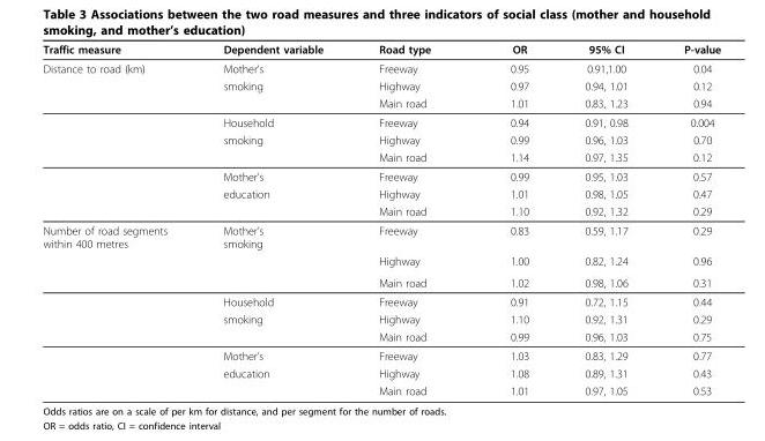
<table><thead><tr><td>Traffic measure</td><td>Dependent variable</td><td>Road type</td><td>OR</td><td>95% CI</td><td>P-value</td></tr></thead><tbody><tr><td rowspan="9">Distance to road (km)</td><td>Mother’s</td><td>Freeway</td><td>0.95</td><td>0.91,1.00</td><td>0.04</td></tr><tr><td>smoking</td><td>Highway</td><td>0.97</td><td>0.94, 1.01</td><td>0.12</td></tr><tr><td></td><td>Main road</td><td>1.01</td><td>0.83, 1.23</td><td>0.94</td></tr><tr><td>Household</td><td>Freeway</td><td>0.94</td><td>0.91, 0.98</td><td>0.004</td></tr><tr><td>smoking</td><td>Highway</td><td>0.99</td><td>0.96, 1.03</td><td>0.70</td></tr><tr><td></td><td>Main road</td><td>1.14</td><td>0.97, 1.35</td><td>0.12</td></tr><tr><td>Mother’s</td><td>Freeway</td><td>0.99</td><td>0.95, 1.03</td><td>0.57</td></tr><tr><td>education</td><td>Highway</td><td>1.01</td><td>0.98, 1.05</td><td>0.47</td></tr><tr><td></td><td>Main road</td><td>1.10</td><td>0.92, 1.32</td><td>0.29</td></tr><tr><td rowspan="9">Number of road segments within 400 metres</td><td>Mother’s smoking</td><td>Freeway</td><td>0.83</td><td>0.59, 1.17</td><td>0.29</td></tr><tr><td></td><td>Highway</td><td>1.00</td><td>0.82, 1.24</td><td>0.96</td></tr><tr><td></td><td>Main road</td><td>1.02</td><td>0.98, 1.06</td><td>0.31</td></tr><tr><td>Household</td><td>Freeway</td><td>0.91</td><td>0.72, 1.15</td><td>0.44</td></tr><tr><td>smoking</td><td>Highway</td><td>1.10</td><td>0.92, 1.31</td><td>0.29</td></tr><tr><td></td><td>Main road</td><td>0.99</td><td>0.96, 1.03</td><td>0.75</td></tr><tr><td>Mother’s</td><td>Freeway</td><td>1.03</td><td>0.83, 1.29</td><td>0.77</td></tr><tr><td>education</td><td>Highway</td><td>1.08</td><td>0.89, 1.31</td><td>0.43</td></tr><tr><td></td><td>Main road</td><td>1.01</td><td>0.97, 1.05</td><td>0.53</td></tr></tbody></table>